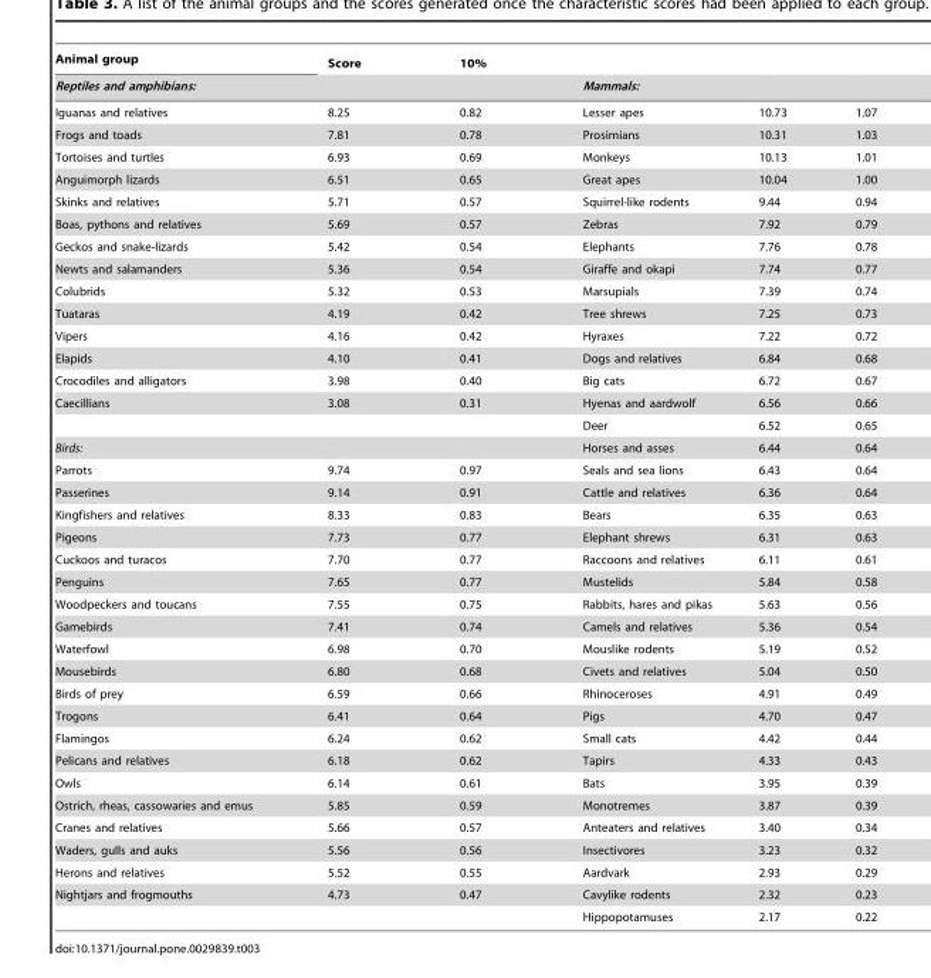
<table><thead><tr><td rowspan="2">Animal group Reptiles and amphibians:</td><td rowspan="2">Score</td><td rowspan="2">10%</td><td rowspan="2">Mammals:</td><td rowspan="2"></td><td rowspan="2"></td></tr><tr></tr></thead><tbody><tr><td>Iguanas and relatives</td><td>8.25</td><td>0.82</td><td>Lesser apes</td><td>10.73</td><td>1.07</td></tr><tr><td>Frogs and toads</td><td>7.81</td><td>0.78</td><td>Prosimians</td><td>10.31</td><td>1.03</td></tr><tr><td>Tortoises and turtles</td><td>6.93</td><td>0.69</td><td>Monkeys</td><td>10.13</td><td>1.01</td></tr><tr><td>Anguimorph lizards</td><td>6.51</td><td>0.65</td><td>Great apes</td><td>10.04</td><td>1.00</td></tr><tr><td>Skinks and relatives</td><td>5.71</td><td>0.57</td><td>Squirrel-like rodents</td><td>9.44</td><td>0.94</td></tr><tr><td>Boas, pythons and relatives</td><td>5.69</td><td>0.57</td><td>Zebras</td><td>7.92</td><td>0.79</td></tr><tr><td>Geckos and snake-lizards</td><td>5.42</td><td>0.54</td><td>Elephants</td><td>7.76</td><td>0.78</td></tr><tr><td>Newts and salamanders</td><td>5.36</td><td>0.54</td><td>Giraffe and okapi</td><td>7.74</td><td>0.77</td></tr><tr><td>Colubrids</td><td>5.32</td><td>0.53</td><td>Marsupials</td><td>7.39</td><td>0.74</td></tr><tr><td>Tuataras</td><td>4.19</td><td>0.42</td><td>Tree shrews</td><td>7.25</td><td>0.73</td></tr><tr><td>Vipers</td><td>4.16</td><td>0.42</td><td>Hyraxes</td><td>7.22</td><td>0.72</td></tr><tr><td>Elapids</td><td>4.10</td><td>0.41</td><td>Dogs and relatives</td><td>6.84</td><td>0.68</td></tr><tr><td>Crocodiles and alligators</td><td>3.98</td><td>0.40</td><td>Big cats</td><td>6.72</td><td>0.67</td></tr><tr><td rowspan="2">Caecillians</td><td>3.08</td><td>0.31</td><td>Hyenas and aardwolf</td><td>6.56</td><td>0.66</td></tr><tr><td></td><td></td><td>Deer</td><td>6.52</td><td>0.65</td></tr><tr><td>Birds:</td><td></td><td></td><td>Horses and asses</td><td>6.44</td><td>0.64</td></tr><tr><td>Parrots</td><td>9.74</td><td>0.97</td><td>Seals and sea lions</td><td>6.43</td><td>0.64</td></tr><tr><td>Passerines</td><td>9.14</td><td>0.91</td><td>Cattle and relatives</td><td>6.36</td><td>0.64</td></tr><tr><td>Kingfishers and relatives</td><td>8.33</td><td>0.83</td><td>Bears</td><td>6.35</td><td>0.63</td></tr><tr><td>Pigeons</td><td>7.73</td><td>0.77</td><td>Elephant shrews</td><td>6.31</td><td>0.63</td></tr><tr><td>Cuckoos and turacos</td><td>7.70</td><td>0.77</td><td>Raccoons and relatives</td><td>6.11</td><td>0.61</td></tr><tr><td>Penguins</td><td>7.65</td><td>0.77</td><td>Mustelids</td><td>5.84</td><td>0.58</td></tr><tr><td>Woodpeckers and toucans</td><td>7.55</td><td>0.75</td><td>Rabbits, hares and pikas</td><td>5.63</td><td>0.56</td></tr><tr><td>Gamebirds</td><td>7.41</td><td>0.74</td><td>Camels and relatives</td><td>5.36</td><td>0.54</td></tr><tr><td>Waterfowl</td><td>6.98</td><td>0.70</td><td>Mouslike rodents</td><td>5.19</td><td>0.52</td></tr><tr><td>Mousebirds</td><td>6.80</td><td>0.68</td><td>Civets and relatives</td><td>5.04</td><td>0.50</td></tr><tr><td>Birds of prey</td><td>6.59</td><td>0.66</td><td>Rhinoceroses</td><td>4.91</td><td>0.49</td></tr><tr><td>Trogons</td><td>6.41</td><td>0.64</td><td>Pigs</td><td>4.70</td><td>0.47</td></tr><tr><td>Flamingos</td><td>6.24</td><td>0.62</td><td>Small cats</td><td>4.42</td><td>0.44</td></tr><tr><td>Pelicans and relatives</td><td>6.18</td><td>0.62</td><td>Tapirs</td><td>4.33</td><td>0.43</td></tr><tr><td>Owls</td><td>6.14</td><td>0.61</td><td>Bats</td><td>3.95</td><td>0.39</td></tr><tr><td>Ostrich, rheas, cassowaries and emus</td><td>5.85</td><td>0.59</td><td>Monotremes</td><td>3.87</td><td>0.39</td></tr><tr><td>Cranes and relatives</td><td>5.66</td><td>0.57</td><td>Anteaters and relatives</td><td>3.40</td><td>0.34</td></tr><tr><td>Waders, gulls and auks</td><td>5.56</td><td>0.56</td><td>Insectivores</td><td>3.23</td><td>0.32</td></tr><tr><td>Herons and relatives</td><td>5.52</td><td>0.55</td><td>Aardvark</td><td>2.93</td><td>0.29</td></tr><tr><td rowspan="2">Nightjars and frogmouths</td><td>4.73</td><td>0.47</td><td>Cavylike rodents</td><td>2.32</td><td>0.23</td></tr><tr><td></td><td></td><td>Hippopotamuses</td><td>2.17</td><td>0.22</td></tr></tbody></table>